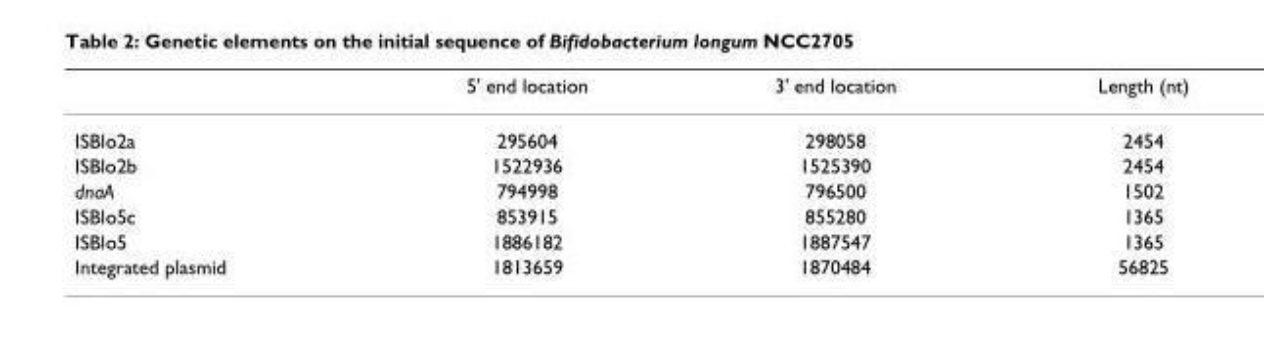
<table><thead><tr><td></td><td>5&#x27; end location</td><td>3&#x27; end location</td><td>Length (nt)</td></tr></thead><tbody><tr><td>ISBlo2a</td><td>295604</td><td>298058</td><td>2454</td></tr><tr><td>ISBlo2b</td><td>1522936</td><td>1525390</td><td>2454</td></tr><tr><td>dnaA</td><td>794998</td><td>796500</td><td>1502</td></tr><tr><td>ISBlo5c</td><td>853915</td><td>855280</td><td>1365</td></tr><tr><td>ISBlo5</td><td>1886182</td><td>1887547</td><td>1365</td></tr><tr><td>Integrated plasmid</td><td>1813659</td><td>1870484</td><td>56825</td></tr></tbody></table>